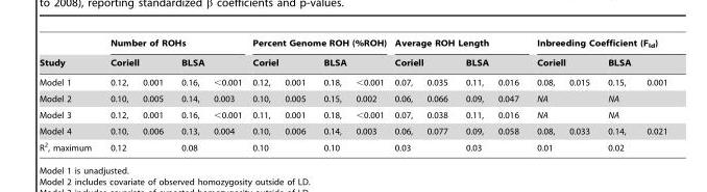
<table><thead><tr><td rowspan="3">Study Model 1</td><td colspan="4">Number of ROHs</td><td colspan="4">Percent Genome ROH (%ROH)</td><td colspan="4">Average ROH Length</td><td colspan="4">Inbreeding Coefficient (F<sub>ld</sub>)</td></tr><tr><td colspan="2">Coriell</td><td colspan="2">BLSA</td><td colspan="2">Coriel</td><td colspan="2">BLSA</td><td colspan="2">Coriell</td><td colspan="2">BLSA</td><td colspan="2">Coriell</td><td colspan="2">BLSA</td></tr><tr><td>0.12,</td><td>0.001</td><td>0.16,</td><td>&lt;0.001</td><td>0.12,</td><td>0.001</td><td>0.18,</td><td>&lt;0.001</td><td>0.07,</td><td>0.035</td><td>0.11,</td><td>0.016</td><td>0.08,</td><td>0.015</td><td>0.15,</td><td>0.001</td></tr></thead><tbody><tr><td>Model 2</td><td>0.10,</td><td>0.005</td><td>0.14,</td><td>0.003</td><td>0.10,</td><td>0.005</td><td>0.15,</td><td>0.002</td><td>0.06,</td><td>0.066</td><td>0.09,</td><td>0.047</td><td colspan="2">NA</td><td colspan="2">NA</td></tr><tr><td>Model 3</td><td>0.12,</td><td>0.001</td><td>0.16,</td><td>&lt;0.001</td><td>0.11,</td><td>0.001</td><td>0.18,</td><td>&lt;0.001</td><td>0.07,</td><td>0.038</td><td>0.11,</td><td>0.016</td><td colspan="2">NA</td><td colspan="2">NA</td></tr><tr><td>Model 4</td><td>0.10,</td><td>0.006</td><td>0.13,</td><td>0.004</td><td>0.10,</td><td>0.006</td><td>0.14,</td><td>0.003</td><td>0.06,</td><td>0.077</td><td>0.09,</td><td>0.058</td><td>0.08,</td><td>0.033</td><td>0.14,</td><td>0.021</td></tr><tr><td>R<sup>2</sup>, maximum</td><td colspan="2">0.12</td><td colspan="2">0.08</td><td colspan="2">0.10</td><td colspan="2">0.10</td><td colspan="2">0.03</td><td colspan="2">0.03</td><td colspan="2">0.01</td><td colspan="2">0.02</td></tr></tbody></table>